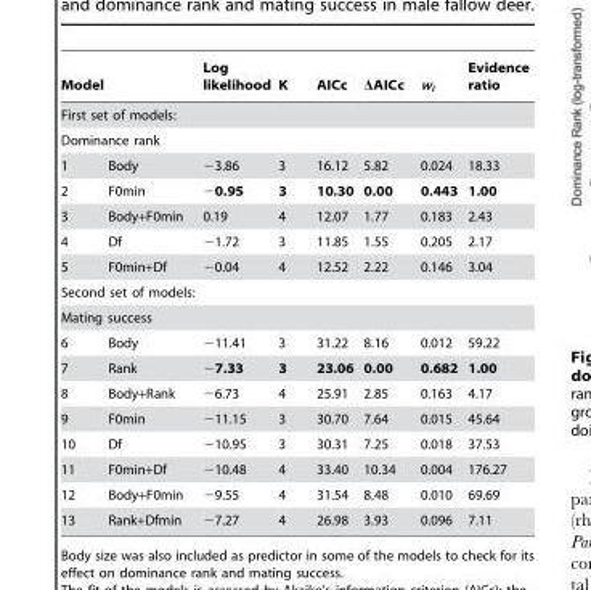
<table><thead><tr><td colspan="2">Model</td><td>Log likelihood</td><td>K</td><td>AICc</td><td>ΔAICc</td><td>w<sub>i</sub></td><td>Evidence ratio</td></tr><tr><td rowspan="2" colspan="8">First set of models: Dominance rank</td></tr><tr></tr><tr><td>1</td><td>Body</td><td>−3.86</td><td>3</td><td>16.12</td><td>5.82</td><td>0.024</td><td>18.33</td></tr></thead><tbody><tr><td>2</td><td>F0min</td><td>−0.95</td><td>3</td><td>10.30</td><td>0.00</td><td>0.443</td><td>1.00</td></tr><tr><td>3</td><td>Body+F0min</td><td>0.19</td><td>4</td><td>12.07</td><td>1.77</td><td>0.183</td><td>2.43</td></tr><tr><td>4</td><td>Df</td><td>−1.72</td><td>3</td><td>11.85</td><td>1.55</td><td>0.205</td><td>2.17</td></tr><tr><td>5</td><td>F0min+Df</td><td>−0.04</td><td>4</td><td>12.52</td><td>2.22</td><td>0.146</td><td>3.04</td></tr><tr><td colspan="8">Second set of models:</td></tr><tr><td colspan="8">Mating success</td></tr><tr><td>6</td><td>Body</td><td>−11.41</td><td>3</td><td>31.22</td><td>8.16</td><td>0.012</td><td>59.22</td></tr><tr><td>7</td><td>Rank</td><td>−7.33</td><td>3</td><td>23.06</td><td>0.00</td><td>0.682</td><td>1.00</td></tr><tr><td>8</td><td>Body+Rank</td><td>−6.73</td><td>4</td><td>25.91</td><td>2.85</td><td>0.163</td><td>4.17</td></tr><tr><td>9</td><td>F0min</td><td>−11.15</td><td>3</td><td>30.70</td><td>7.64</td><td>0.015</td><td>45.64</td></tr><tr><td>10</td><td>Df</td><td>−10.95</td><td>3</td><td>30.31</td><td>7.25</td><td>0.018</td><td>37.53</td></tr><tr><td>11</td><td>F0min+Df</td><td>−10.48</td><td>4</td><td>33.40</td><td>10.34</td><td>0.004</td><td>176.27</td></tr><tr><td>12</td><td>Body+F0min</td><td>−9.55</td><td>4</td><td>31.54</td><td>8.48</td><td>0.010</td><td>69.69</td></tr><tr><td>13</td><td>Rank+Dfmin</td><td>−7.27</td><td>4</td><td>26.98</td><td>3.93</td><td>0.096</td><td>7.11</td></tr></tbody></table>